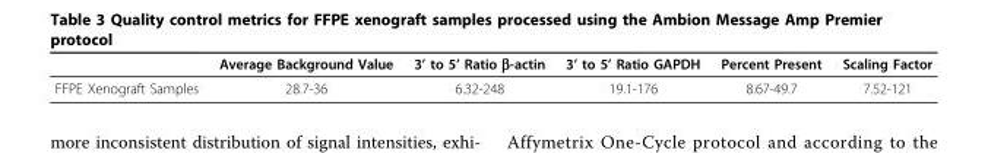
<table><thead><tr><td></td><td>Average Background Value</td><td>3’ to 5’ Ratio β-actin</td><td>3’ to 5’ Ratio GAPDH</td><td>Percent Present</td><td>Scaling Factor</td></tr></thead><tbody><tr><td>FFPE Xenograft Samples</td><td>28.7-36</td><td>6.32-248</td><td>19.1-176</td><td>8.67-49.7</td><td>7.52-121</td></tr></tbody></table>